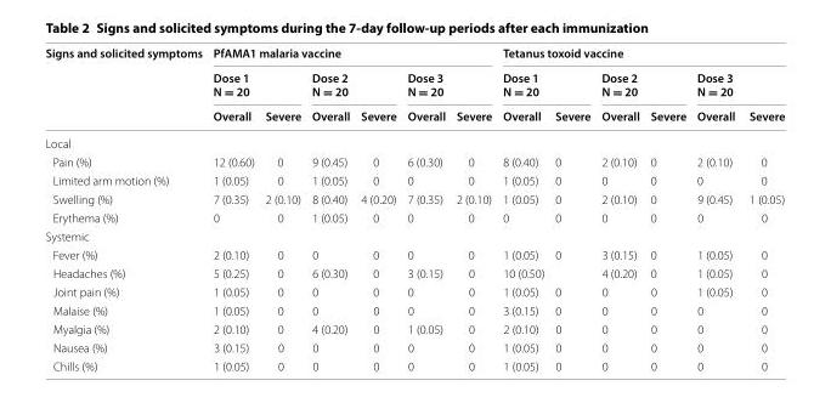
<table><thead><tr><td rowspan="3">Signs and solicited symptoms</td><td colspan="6">PfAMA1 malaria vaccine</td><td colspan="6">Tetanus toxoid vaccine</td></tr><tr><td colspan="2">Dose 1 N = 20</td><td colspan="2">Dose 2 N = 20</td><td colspan="2">Dose 3 N = 20</td><td colspan="2">Dose 1 N = 20</td><td colspan="2">Dose 2 N = 20</td><td colspan="2">Dose 3 N = 20</td></tr><tr><td>Overall</td><td>Severe</td><td>Overall</td><td>Severe</td><td>Overall</td><td>Severe</td><td>Overall</td><td>Severe</td><td>Overall</td><td>Severe</td><td>Overall</td><td>Severe</td></tr></thead><tbody><tr><td colspan="13">Local</td></tr><tr><td>Pain (%)</td><td>12 (0.60)</td><td>0</td><td>9 (0.45)</td><td>0</td><td>6 (0.30)</td><td>0</td><td>8 (0.40)</td><td>0</td><td>2 (0.10)</td><td>0</td><td>2 (0.10)</td><td>0</td></tr><tr><td>Limited arm motion (%)</td><td>1 (0.05)</td><td>0</td><td>1 (0.05)</td><td>0</td><td>0</td><td>0</td><td>1 (0.05)</td><td>0</td><td>0</td><td>0</td><td>0</td><td>0</td></tr><tr><td>Swelling (%)</td><td>7 (0.35)</td><td>2 (0.10)</td><td>8 (0.40)</td><td>4 (0.20)</td><td>7 (0.35)</td><td>2 (0.10)</td><td>1 (0.05)</td><td>0</td><td>2 (0.10)</td><td>0</td><td>9 (0.45)</td><td>1 (0.05)</td></tr><tr><td>Erythema (%)</td><td>0</td><td>0</td><td>1 (0.05)</td><td>0</td><td>0</td><td>0</td><td>0</td><td>0</td><td>0</td><td>0</td><td>0</td><td>0</td></tr><tr><td colspan="13">Systemic</td></tr><tr><td>Fever (%)</td><td>2 (0.10)</td><td>0</td><td>0</td><td>0</td><td>0</td><td>0</td><td>1 (0.05)</td><td>0</td><td>3 (0.15)</td><td>0</td><td>1 (0.05)</td><td>0</td></tr><tr><td>Headaches (%)</td><td>5 (0.25)</td><td>0</td><td>6 (0.30)</td><td>0</td><td>3 (0.15)</td><td>0</td><td>10 (0.50)</td><td></td><td>4 (0.20)</td><td>0</td><td>1 (0.05)</td><td>0</td></tr><tr><td>Joint pain (%)</td><td>1 (0.05)</td><td>0</td><td>0</td><td>0</td><td>0</td><td>0</td><td>1 (0.05)</td><td>0</td><td>0</td><td>0</td><td>1 (0.05)</td><td>0</td></tr><tr><td>Malaise (%)</td><td>1 (0.05)</td><td>0</td><td>0</td><td>0</td><td>0</td><td>0</td><td>3 (0.15)</td><td>0</td><td>0</td><td>0</td><td>0</td><td>0</td></tr><tr><td>Myalgia (%)</td><td>2 (0.10)</td><td>0</td><td>4 (0.20)</td><td>0</td><td>1 (0.05)</td><td>0</td><td>2 (0.10)</td><td>0</td><td>0</td><td>0</td><td>0</td><td>0</td></tr><tr><td>Nausea (%)</td><td>3 (0.15)</td><td>0</td><td>0</td><td>0</td><td>0</td><td>0</td><td>1 (0.05)</td><td>0</td><td>0</td><td>0</td><td>0</td><td>0</td></tr><tr><td>Chills (%)</td><td>1 (0.05)</td><td>0</td><td>0</td><td>0</td><td>0</td><td>0</td><td>1 (0.05)</td><td>0</td><td>0</td><td>0</td><td>0</td><td>0</td></tr></tbody></table>